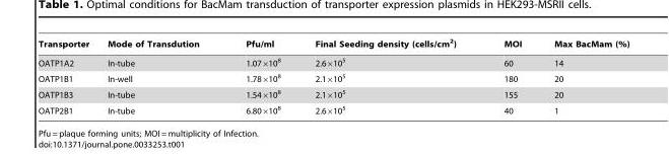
<table><thead><tr><td>Transporter</td><td>Mode of Transdution</td><td>Pfu/ml</td><td>Final Seeding density (cells/cm<sup>2</sup>)</td><td>MOI</td><td>Max BacMam (%)</td></tr></thead><tbody><tr><td>OATP1A2</td><td>In-tube</td><td>1.07×10<sup>8</sup></td><td>2.6×10<sup>5</sup></td><td>60</td><td>14</td></tr><tr><td>OATP1B1</td><td>In-well</td><td>1.78×10<sup>8</sup></td><td>2.1×10<sup>5</sup></td><td>180</td><td>20</td></tr><tr><td>OATP1B3</td><td>In-tube</td><td>1.54×10<sup>8</sup></td><td>2.1×10<sup>5</sup></td><td>155</td><td>20</td></tr><tr><td>OATP2B1</td><td>In-tube</td><td>6.80×10<sup>8</sup></td><td>2.6×10<sup>5</sup></td><td>40</td><td>1</td></tr></tbody></table>